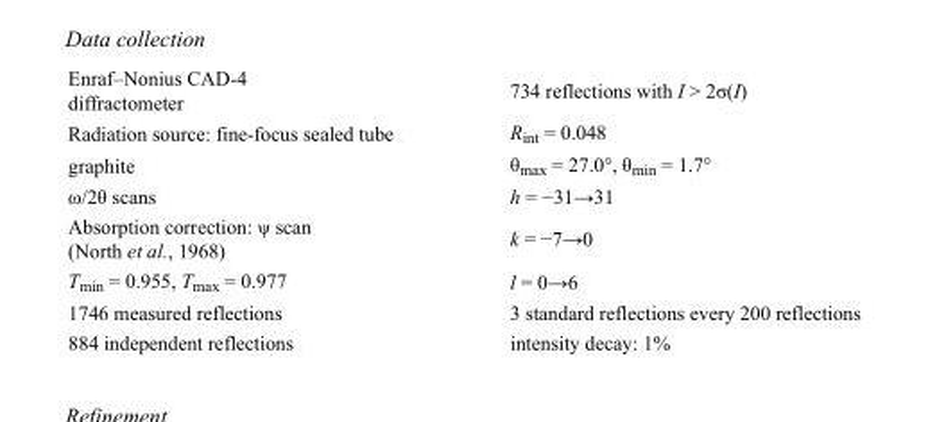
<table><tbody><tr><td>Enraf–Nonius CAD-4 diffractometer</td><td>734 reflections with I &gt; 2σ(I)</td></tr><tr><td>Radiation source: fine-focus sealed tube</td><td>R<sub>int</sub> = 0.048</td></tr><tr><td>graphite</td><td>θ<sub>max</sub> = 27.0°, θ<sub>min</sub> = 1.7°</td></tr><tr><td>ω/2θ scans</td><td>h = −31→31</td></tr><tr><td>Absorption correction: ψ scan (North et al., 1968)</td><td>k = −7→0</td></tr><tr><td>T<sub>min</sub> = 0.955, T<sub>max</sub> = 0.977</td><td>l = 0→6</td></tr><tr><td>1746 measured reflections</td><td>3 standard reflections every 200 reflections</td></tr><tr><td>884 independent reflections</td><td>intensity decay: 1%</td></tr></tbody></table>